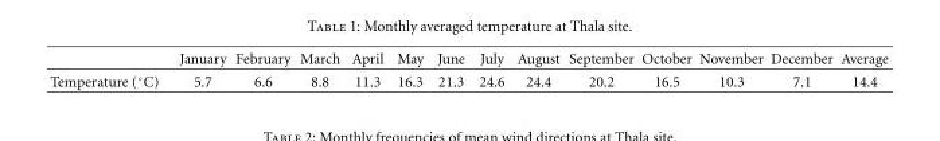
<table><thead><tr><td></td><td>January</td><td>February</td><td>March</td><td>April</td><td>May</td><td>June</td><td>July</td><td>August</td><td>September</td><td>October</td><td>November</td><td>December</td><td>Average</td></tr></thead><tbody><tr><td>Temperature (◦C)</td><td>5.7</td><td>6.6</td><td>8.8</td><td>11.3</td><td>16.3</td><td>21.3</td><td>24.6</td><td>24.4</td><td>20.2</td><td>16.5</td><td>10.3</td><td>7.1</td><td>14.4</td></tr></tbody></table>